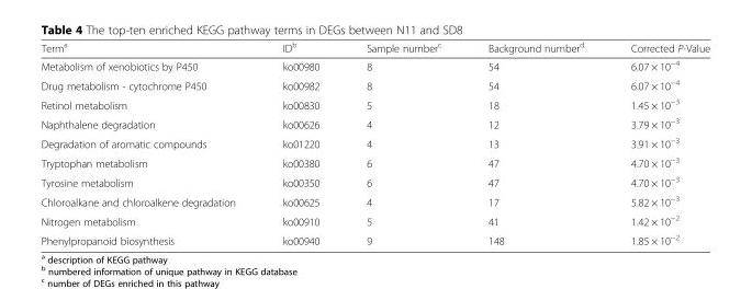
<table><thead><tr><td>Term<sup>a</sup></td><td>ID<sup>b</sup></td><td>Sample number<sup>c</sup></td><td>Background number<sup>d</sup></td><td>Corrected P-Value</td></tr></thead><tbody><tr><td>Metabolism of xenobiotics by P450</td><td>ko00980</td><td>8</td><td>54</td><td>6.07 × 10<sup>−4</sup></td></tr><tr><td>Drug metabolism - cytochrome P450</td><td>ko00982</td><td>8</td><td>54</td><td>6.07 × 10<sup>−4</sup></td></tr><tr><td>Retinol metabolism</td><td>ko00830</td><td>5</td><td>18</td><td>1.45 × 10<sup>−3</sup></td></tr><tr><td>Naphthalene degradation</td><td>ko00626</td><td>4</td><td>12</td><td>3.79 × 10<sup>−3</sup></td></tr><tr><td>Degradation of aromatic compounds</td><td>ko01220</td><td>4</td><td>13</td><td>3.91 × 10<sup>−3</sup></td></tr><tr><td>Tryptophan metabolism</td><td>ko00380</td><td>6</td><td>47</td><td>4.70 × 10<sup>−3</sup></td></tr><tr><td>Tyrosine metabolism</td><td>ko00350</td><td>6</td><td>47</td><td>4.70 × 10<sup>−3</sup></td></tr><tr><td>Chloroalkane and chloroalkene degradation</td><td>ko00625</td><td>4</td><td>17</td><td>5.82 × 10<sup>−3</sup></td></tr><tr><td>Nitrogen metabolism</td><td>ko00910</td><td>5</td><td>41</td><td>1.42 × 10<sup>−2</sup></td></tr><tr><td>Phenylpropanoid biosynthesis</td><td>ko00940</td><td>9</td><td>148</td><td>1.85 × 10<sup>−2</sup></td></tr></tbody></table>